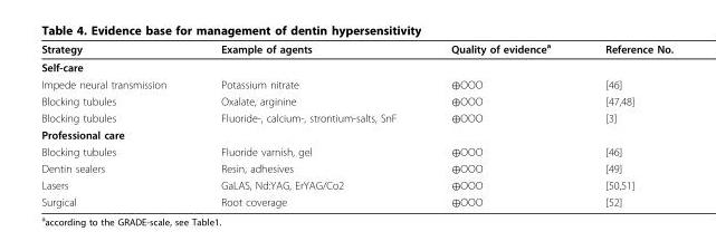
<table><thead><tr><td>Strategy</td><td>Example of agents</td><td>Quality of evidence<sup>a</sup></td><td>Reference No.</td></tr></thead><tbody><tr><td colspan="4">Self-care</td></tr><tr><td>Impede neural transmission</td><td>Potassium nitrate</td><td>⊕OOO</td><td>[46]</td></tr><tr><td>Blocking tubules</td><td>Oxalate, arginine</td><td>⊕OOO</td><td>[47,48]</td></tr><tr><td>Blocking tubules</td><td>Fluoride-, calcium-, strontium-salts, SnF</td><td>⊕OOO</td><td>[3]</td></tr><tr><td colspan="4">Professional care</td></tr><tr><td>Blocking tubules</td><td>Fluoride varnish, gel</td><td>⊕OOO</td><td>[46]</td></tr><tr><td>Dentin sealers</td><td>Resin, adhesives</td><td>⊕OOO</td><td>[49]</td></tr><tr><td>Lasers</td><td>GaLAS, Nd:YAG, ErYAG/Co2</td><td>⊕OOO</td><td>[50,51]</td></tr><tr><td>Surgical</td><td>Root coverage</td><td>⊕OOO</td><td>[52]</td></tr></tbody></table>